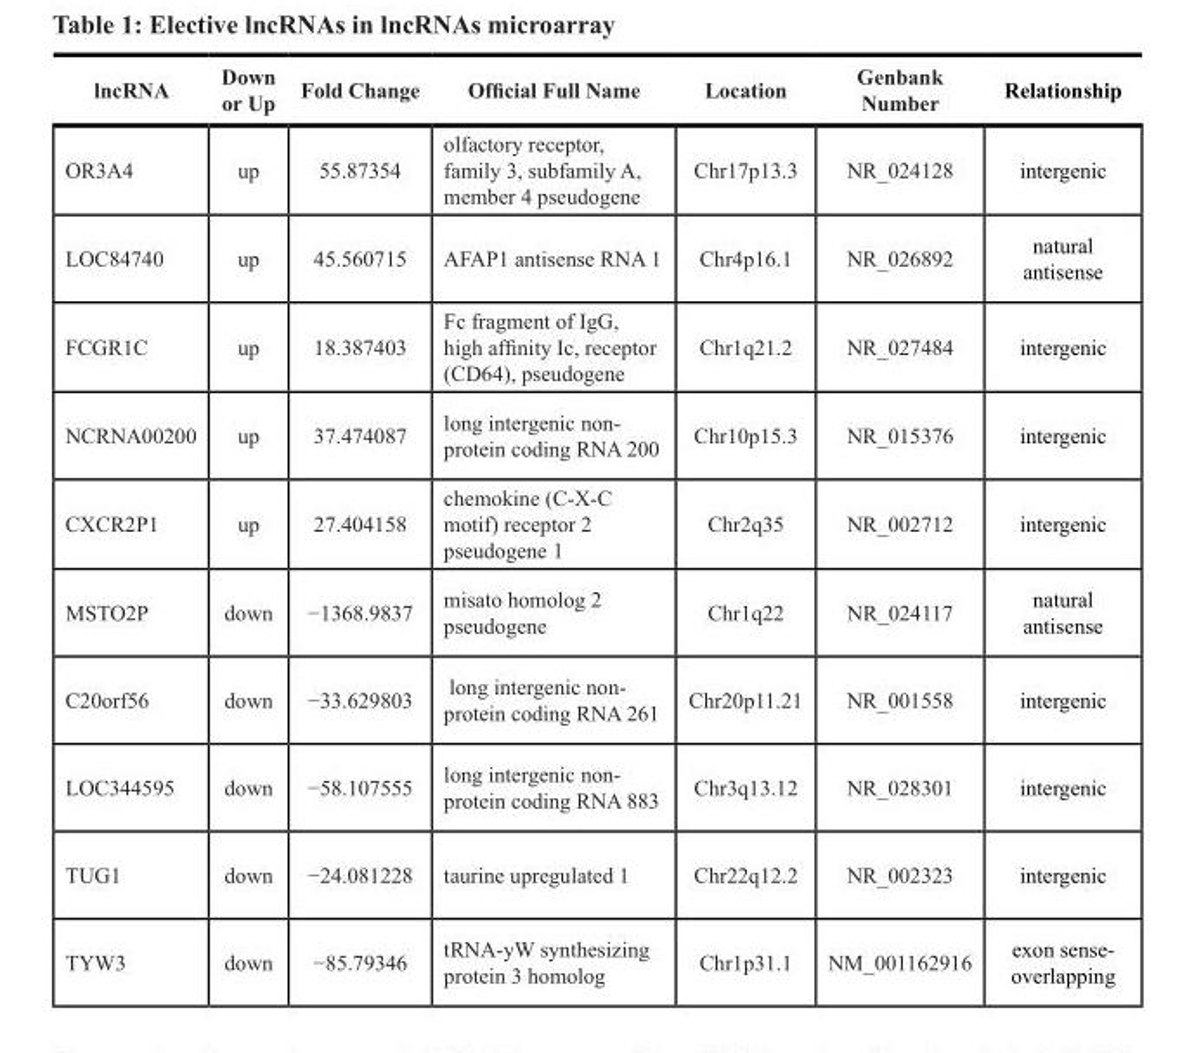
<table><thead><tr><td>lncRNA</td><td>Down or Up</td><td>Fold Change</td><td>Official Full Name</td><td>Location</td><td>Genbank Number</td><td>Relationship</td></tr></thead><tbody><tr><td>OR3A4</td><td>up</td><td>55.87354</td><td>olfactory receptor, family 3, subfamily A, member 4 pseudogene</td><td>Chr17p13.3</td><td>NR_024128</td><td>intergenic</td></tr><tr><td>LOC84740</td><td>up</td><td>45.560715</td><td>AFAP1 antisense RNA 1</td><td>Chr4p16.1</td><td>NR_026892</td><td>natural antisense</td></tr><tr><td>FCGR1C</td><td>up</td><td>18.387403</td><td>Fc fragment of IgG, high affinity Ic, receptor (CD64), pseudogene</td><td>Chr1q21.2</td><td>NR_027484</td><td>intergenic</td></tr><tr><td>NCRNA00200</td><td>up</td><td>37.474087</td><td>long intergenic non- protein coding RNA 200</td><td>Chr10p15.3</td><td>NR_015376</td><td>intergenic</td></tr><tr><td>CXCR2P1</td><td>up</td><td>27.404158</td><td>chemokine (C-X-C motif) receptor 2 pseudogene 1</td><td>Chr2q35</td><td>NR_002712</td><td>intergenic</td></tr><tr><td>MSTO2P</td><td>down</td><td>−1368.9837</td><td>misato homolog 2 pseudogene</td><td>Chr1q22</td><td>NR_024117</td><td>natural antisense</td></tr><tr><td>C20orf56</td><td>down</td><td>−33.629803</td><td>long intergenic non- protein coding RNA 261</td><td>Chr20p11.21</td><td>NR_001558</td><td>intergenic</td></tr><tr><td>LOC344595</td><td>down</td><td>−58.107555</td><td>long intergenic non- protein coding RNA 883</td><td>Chr3q13.12</td><td>NR_028301</td><td>intergenic</td></tr><tr><td>TUG1</td><td>down</td><td>−24.081228</td><td>taurine upregulated 1</td><td>Chr22q12.2</td><td>NR_002323</td><td>intergenic</td></tr><tr><td>TYW3</td><td>down</td><td>−85.79346</td><td>tRNA-yW synthesizing protein 3 homolog</td><td>Chr1p31.1</td><td>NM_001162916</td><td>exon sense- overlapping</td></tr></tbody></table>